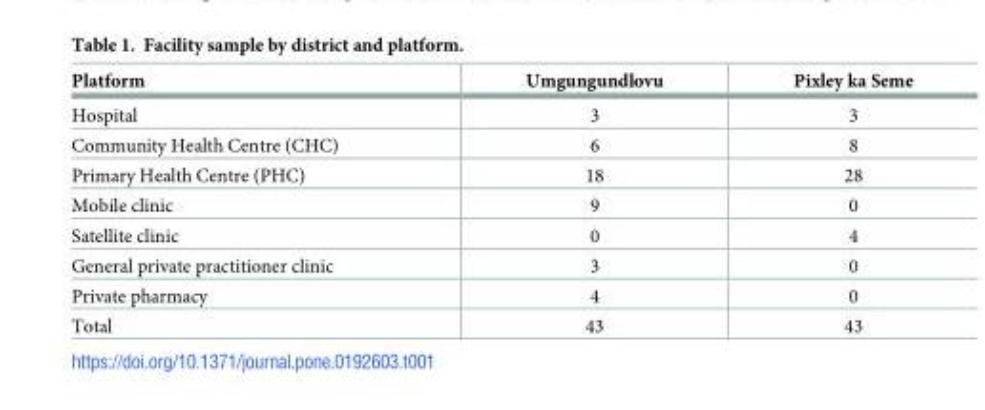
<table><thead><tr><td>Platform</td><td>Umgungundlovu</td><td>Pixley ka Seme</td></tr></thead><tbody><tr><td>Hospital</td><td>3</td><td>3</td></tr><tr><td>Community Health Centre (CHC)</td><td>6</td><td>8</td></tr><tr><td>Primary Health Centre (PHC)</td><td>18</td><td>28</td></tr><tr><td>Mobile clinic</td><td>9</td><td>0</td></tr><tr><td>Satellite clinic</td><td>0</td><td>4</td></tr><tr><td>General private practitioner clinic</td><td>3</td><td>0</td></tr><tr><td>Private pharmacy</td><td>4</td><td>0</td></tr><tr><td>Total</td><td>43</td><td>43</td></tr></tbody></table>